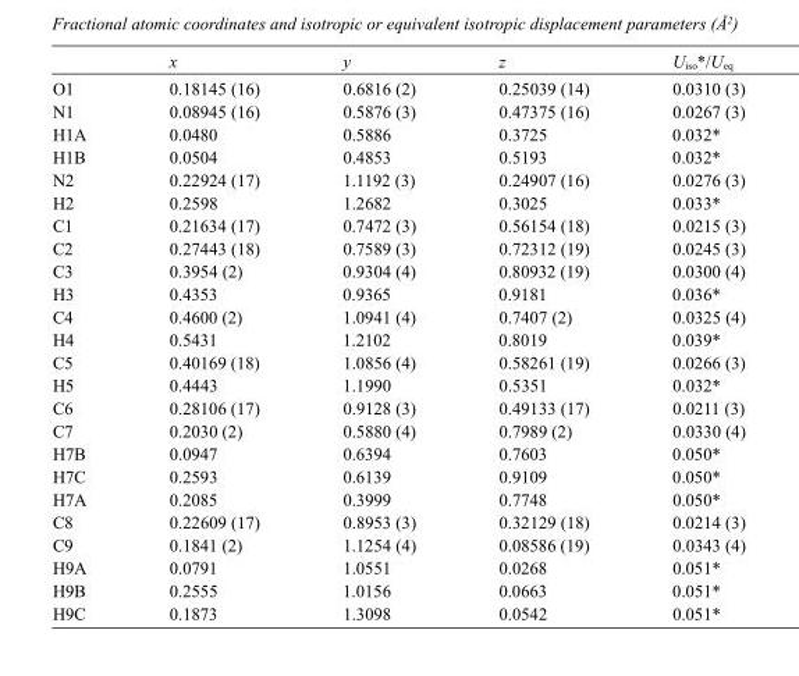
<table><thead><tr><td></td><td>x</td><td>y</td><td>z</td><td>U<sub>iso</sub>*/U<sub>eq</sub></td></tr></thead><tbody><tr><td>O1</td><td>0.18145 (16)</td><td>0.6816 (2)</td><td>0.25039 (14)</td><td>0.0310 (3)</td></tr><tr><td>N1</td><td>0.08945 (16)</td><td>0.5876 (3)</td><td>0.47375 (16)</td><td>0.0267 (3)</td></tr><tr><td>H1A</td><td>0.0480</td><td>0.5886</td><td>0.3725</td><td>0.032*</td></tr><tr><td>H1B</td><td>0.0504</td><td>0.4853</td><td>0.5193</td><td>0.032*</td></tr><tr><td>N2</td><td>0.22924 (17)</td><td>1.1192 (3)</td><td>0.24907 (16)</td><td>0.0276 (3)</td></tr><tr><td>H2</td><td>0.2598</td><td>1.2682</td><td>0.3025</td><td>0.033*</td></tr><tr><td>C1</td><td>0.21634 (17)</td><td>0.7472 (3)</td><td>0.56154 (18)</td><td>0.0215 (3)</td></tr><tr><td>C2</td><td>0.27443 (18)</td><td>0.7589 (3)</td><td>0.72312 (19)</td><td>0.0245 (3)</td></tr><tr><td>C3</td><td>0.3954 (2)</td><td>0.9304 (4)</td><td>0.80932 (19)</td><td>0.0300 (4)</td></tr><tr><td>H3</td><td>0.4353</td><td>0.9365</td><td>0.9181</td><td>0.036*</td></tr><tr><td>C4</td><td>0.4600 (2)</td><td>1.0941 (4)</td><td>0.7407 (2)</td><td>0.0325 (4)</td></tr><tr><td>H4</td><td>0.5431</td><td>1.2102</td><td>0.8019</td><td>0.039*</td></tr><tr><td>C5</td><td>0.40169 (18)</td><td>1.0856 (4)</td><td>0.58261 (19)</td><td>0.0266 (3)</td></tr><tr><td>H5</td><td>0.4443</td><td>1.1990</td><td>0.5351</td><td>0.032*</td></tr><tr><td>C6</td><td>0.28106 (17)</td><td>0.9128 (3)</td><td>0.49133 (17)</td><td>0.0211 (3)</td></tr><tr><td>C7</td><td>0.2030 (2)</td><td>0.5880 (4)</td><td>0.7989 (2)</td><td>0.0330 (4)</td></tr><tr><td>H7B</td><td>0.0947</td><td>0.6394</td><td>0.7603</td><td>0.050*</td></tr><tr><td>H7C</td><td>0.2593</td><td>0.6139</td><td>0.9109</td><td>0.050*</td></tr><tr><td>H7A</td><td>0.2085</td><td>0.3999</td><td>0.7748</td><td>0.050*</td></tr><tr><td>C8</td><td>0.22609 (17)</td><td>0.8953 (3)</td><td>0.32129 (18)</td><td>0.0214 (3)</td></tr><tr><td>C9</td><td>0.1841 (2)</td><td>1.1254 (4)</td><td>0.08586 (19)</td><td>0.0343 (4)</td></tr><tr><td>H9A</td><td>0.0791</td><td>1.0551</td><td>0.0268</td><td>0.051*</td></tr><tr><td>H9B</td><td>0.2555</td><td>1.0156</td><td>0.0663</td><td>0.051*</td></tr><tr><td>H9C</td><td>0.1873</td><td>1.3098</td><td>0.0542</td><td>0.051*</td></tr></tbody></table>